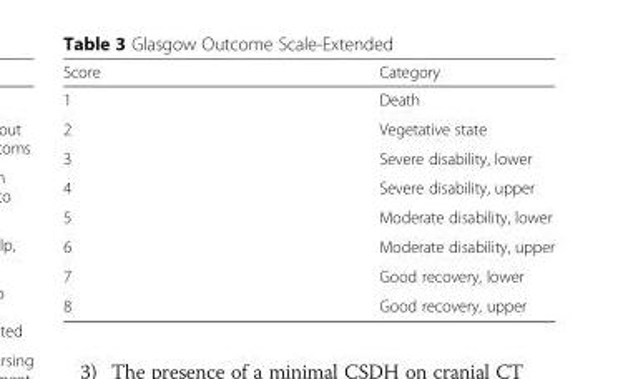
<table><thead><tr><td>Score</td><td>Category</td></tr></thead><tbody><tr><td>1</td><td>Death</td></tr><tr><td>2</td><td>Vegetative state</td></tr><tr><td>3</td><td>Severe disability, lower</td></tr><tr><td>4</td><td>Severe disability, upper</td></tr><tr><td>5</td><td>Moderate disability, lower</td></tr><tr><td>6</td><td>Moderate disability, upper</td></tr><tr><td>7</td><td>Good recovery, lower</td></tr><tr><td>8</td><td>Good recovery, upper</td></tr></tbody></table>